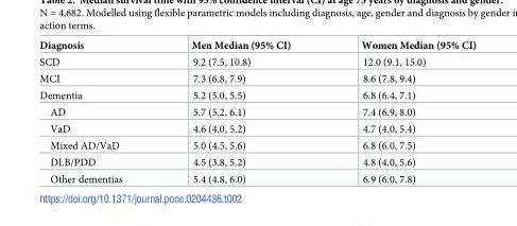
<table><thead><tr><td>Diagnosis</td><td>Men Median (95% CI)</td><td>Women Median (95% CI)</td></tr></thead><tbody><tr><td>SCD</td><td>9.2 (7.5, 10.8)</td><td>12.0 (9.1, 15.0)</td></tr><tr><td>MCI</td><td>7.3 (6.8, 7.9)</td><td>8.6 (7.8, 9.4)</td></tr><tr><td>Dementia</td><td>5.2 (5.0, 5.5)</td><td>6.8 (6.4, 7.1)</td></tr><tr><td>AD</td><td>5.7 (5.2, 6.1)</td><td>7.4 (6.9, 8.0)</td></tr><tr><td>VaD</td><td>4.6 (4.0, 5.2)</td><td>4.7 (4.0, 5.4)</td></tr><tr><td>Mixed AD/VaD</td><td>5.0 (4.5, 5.6)</td><td>6.8 (6.0, 7.5)</td></tr><tr><td>DLB/PDD</td><td>4.5 (3.8, 5.2)</td><td>4.8 (4.0, 5.6)</td></tr><tr><td>Other dementias</td><td>5.4 (4.8, 6.0)</td><td>6.9 (6.0, 7.8)</td></tr></tbody></table>